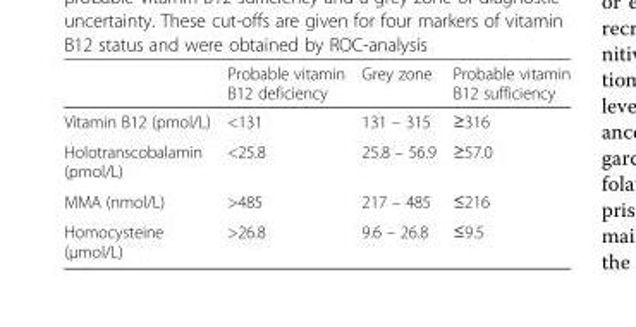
<table><thead><tr><td></td><td>Probable vitamin B12 deficiency</td><td>Grey zone</td><td>Probable vitamin B12 sufficiency</td></tr></thead><tbody><tr><td>Vitamin B12 (pmol/L)</td><td>&lt;131</td><td>131 – 315</td><td>≥316</td></tr><tr><td>Holotranscobalamin (pmol/L)</td><td>&lt;25.8</td><td>25.8 – 56.9</td><td>≥57.0</td></tr><tr><td>MMA (nmol/L)</td><td>&gt;485</td><td>217 – 485</td><td>≤216</td></tr><tr><td>Homocysteine (μmol/L)</td><td>&gt;26.8</td><td>9.6 – 26.8</td><td>≤9.5</td></tr></tbody></table>